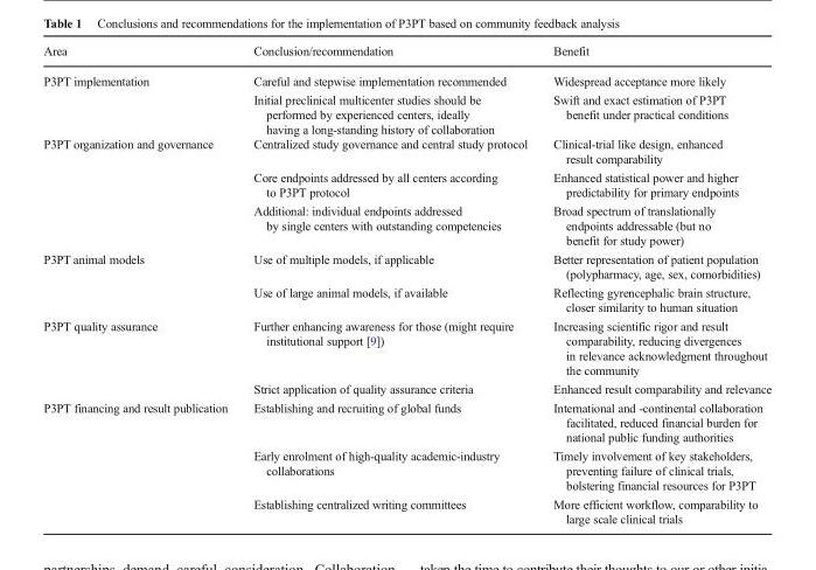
<table><thead><tr><td>Area</td><td>Conclusion/recommendation</td><td>Benefit</td></tr></thead><tbody><tr><td rowspan="2">P3PT implementation</td><td>Careful and stepwise implementation recommended</td><td>Widespread acceptance more likely</td></tr><tr><td>Initial preclinical multicenter studies should be performed by experienced centers, ideally having a long-standing history of collaboration</td><td>Swift and exact estimation of P3PT benefit under practical conditions</td></tr><tr><td rowspan="3">P3PT organization and governance</td><td>Centralized study governance and central study protocol</td><td>Clinical-trial like design, enhanced result comparability</td></tr><tr><td>Core endpoints addressed by all centers according to P3PT protocol</td><td>Enhanced statistical power and higher predictability for primary endpoints</td></tr><tr><td>Additional: individual endpoints addressed by single centers with outstanding competencies</td><td>Broad spectrum of translationally endpoints addressable (but no benefit for study power)</td></tr><tr><td rowspan="2">P3PT animal models</td><td>Use of multiple models, if applicable</td><td>Better representation of patient population (polypharmacy, age, sex, comorbidities)</td></tr><tr><td>Use of large animal models, if available</td><td>Reflecting gyrencephalic brain structure, closer similarity to human situation</td></tr><tr><td rowspan="2">P3PT quality assurance</td><td>Further enhancing awareness for those (might require institutional support [9])</td><td>Increasing scientific rigor and result comparability, reducing divergences in relevance acknowledgment throughout the community</td></tr><tr><td>Strict application of quality assurance criteria</td><td>Enhanced result comparability and relevance</td></tr><tr><td rowspan="3">P3PT financing and result publication</td><td>Establishing and recruiting of global funds</td><td>International and -continental collaboration facilitated, reduced financial burden for national public funding authorities</td></tr><tr><td>Early enrolment of high-quality academic-industry collaborations</td><td>Timely involvement of key stakeholders, preventing failure of clinical trials, bolstering financial resources for P3PT</td></tr><tr><td>Establishing centralized writing committees</td><td>More efficient workflow, comparability to large scale clinical trials</td></tr></tbody></table>